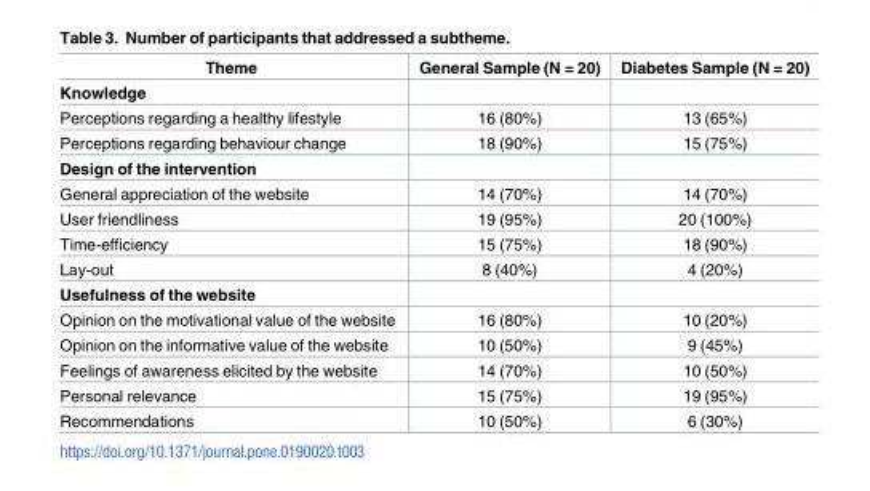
<table><thead><tr><td>Theme</td><td>General Sample (N = 20)</td><td>Diabetes Sample (N = 20)</td></tr></thead><tbody><tr><td colspan="3">Knowledge</td></tr><tr><td>Perceptions regarding a healthy lifestyle</td><td>16 (80%)</td><td>13 (65%)</td></tr><tr><td>Perceptions regarding behaviour change</td><td>18 (90%)</td><td>15 (75%)</td></tr><tr><td colspan="3">Design of the intervention</td></tr><tr><td>General appreciation of the website</td><td>14 (70%)</td><td>14 (70%)</td></tr><tr><td>User friendliness</td><td>19 (95%)</td><td>20 (100%)</td></tr><tr><td>Time-efficiency</td><td>15 (75%)</td><td>18 (90%)</td></tr><tr><td>Lay-out</td><td>8 (40%)</td><td>4 (20%)</td></tr><tr><td colspan="3">Usefulness of the website</td></tr><tr><td>Opinion on the motivational value of the website</td><td>16 (80%)</td><td>10 (20%)</td></tr><tr><td>Opinion on the informative value of the website</td><td>10 (50%)</td><td>9 (45%)</td></tr><tr><td>Feelings of awareness elicited by the website</td><td>14 (70%)</td><td>10 (50%)</td></tr><tr><td>Personal relevance</td><td>15 (75%)</td><td>19 (95%)</td></tr><tr><td>Recommendations</td><td>10 (50%)</td><td>6 (30%)</td></tr></tbody></table>